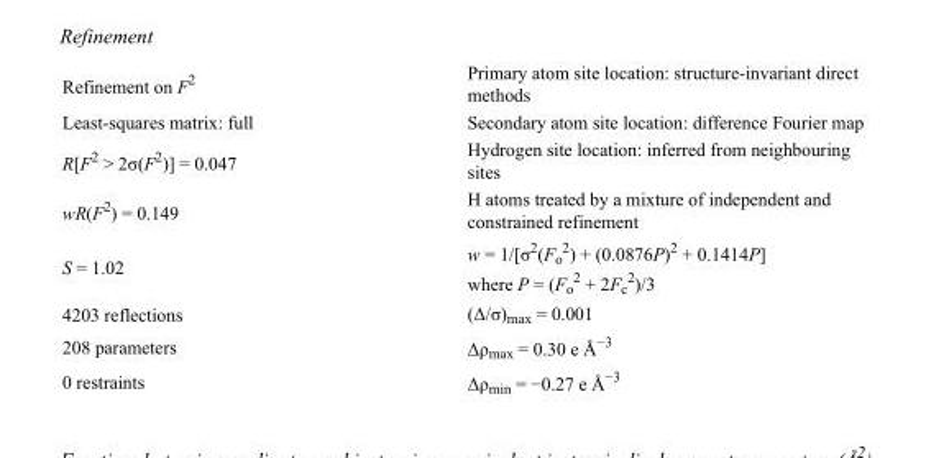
<table><tbody><tr><td>Refinement on F<sup>2</sup></td><td>Primary atom site location: structure-invariant direct methods</td></tr><tr><td>Least-squares matrix: full</td><td>Secondary atom site location: difference Fourier map</td></tr><tr><td>R[F<sup>2</sup> &gt; 2σ(F<sup>2</sup>)] = 0.047</td><td>Hydrogen site location: inferred from neighbouring sites</td></tr><tr><td>wR(F<sup>2</sup>) = 0.149</td><td>H atoms treated by a mixture of independent and constrained refinement</td></tr><tr><td>S = 1.02</td><td>w = 1/[σ<sup>2</sup>(F<sub>o</sub> <sup>2</sup>) + (0.0876P)<sup>2</sup> + 0.1414P] where P = (F<sub>o</sub> <sup>2</sup> + 2F<sub>c</sub> <sup>2</sup>)/3</td></tr><tr><td>4203 reflections</td><td>(Δ/σ)<sub>max</sub> = 0.001</td></tr><tr><td>208 parameters</td><td>Δρ<sub>max</sub> = 0.30 e Å<sup>−3</sup></td></tr><tr><td>0 restraints</td><td>Δρ<sub>min</sub> = −0.27 e Å<sup>−3</sup></td></tr></tbody></table>